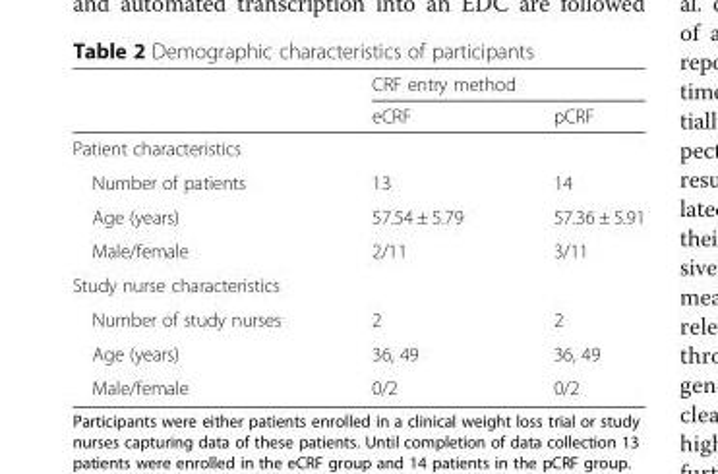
<table><thead><tr><td rowspan="2"></td><td colspan="2">CRF entry method</td></tr><tr><td>eCRF</td><td>pCRF</td></tr></thead><tbody><tr><td colspan="3">Patient characteristics</td></tr><tr><td>Number of patients</td><td>13</td><td>14</td></tr><tr><td>Age (years)</td><td>57.54 ± 5.79</td><td>57.36 ± 5.91</td></tr><tr><td>Male/female</td><td>2/11</td><td>3/11</td></tr><tr><td colspan="3">Study nurse characteristics</td></tr><tr><td>Number of study nurses</td><td>2</td><td>2</td></tr><tr><td>Age (years)</td><td>36, 49</td><td>36, 49</td></tr><tr><td>Male/female</td><td>0/2</td><td>0/2</td></tr></tbody></table>